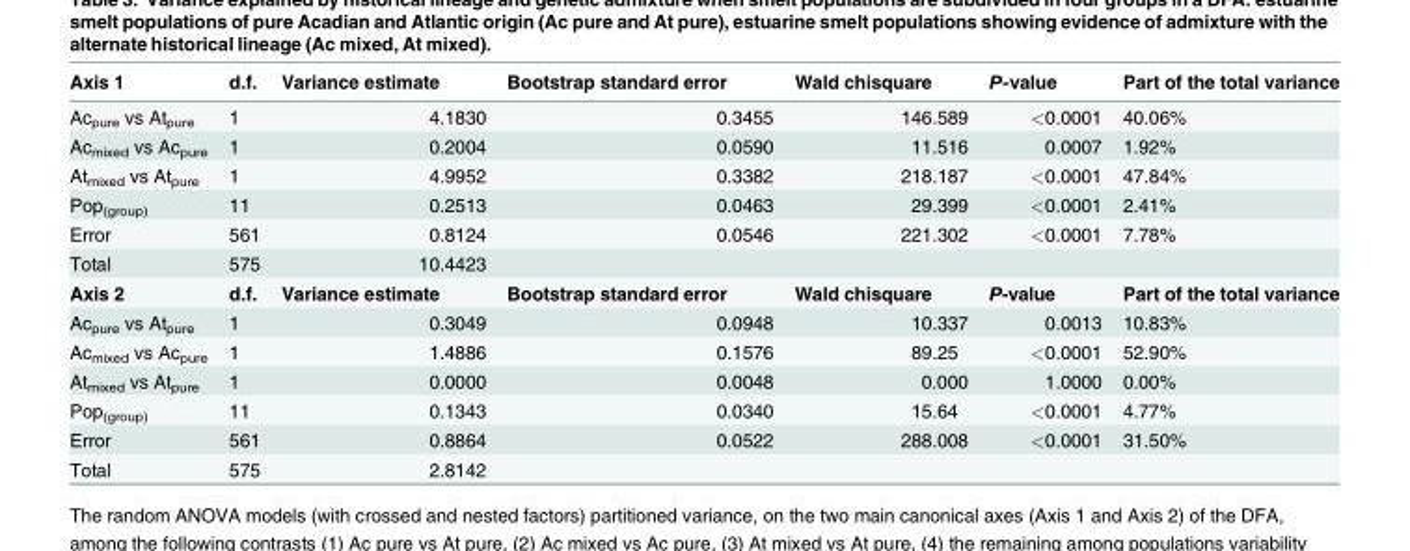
<table><thead><tr><td>Axis 1</td><td>d.f.</td><td>Variance estimate</td><td>Bootstrap standard error</td><td>Wald chisquare</td><td>P-value</td><td>Part of the total variance</td></tr></thead><tbody><tr><td>Ac<sub>pure</sub> vs At<sub>pure</sub></td><td>1</td><td>4.1830</td><td>0.3455</td><td>146.589</td><td>&lt;0.0001</td><td>40.06%</td></tr><tr><td>Ac<sub>mixed</sub> vs Ac<sub>pure</sub></td><td>1</td><td>0.2004</td><td>0.0590</td><td>11.516</td><td>0.0007</td><td>1.92%</td></tr><tr><td>At<sub>mixed</sub> vs At<sub>pure</sub></td><td>1</td><td>4.9952</td><td>0.3382</td><td>218.187</td><td>&lt;0.0001</td><td>47.84%</td></tr><tr><td>Pop<sub>(group)</sub></td><td>11</td><td>0.2513</td><td>0.0463</td><td>29.399</td><td>&lt;0.0001</td><td>2.41%</td></tr><tr><td>Error</td><td>561</td><td>0.8124</td><td>0.0546</td><td>221.302</td><td>&lt;0.0001</td><td>7.78%</td></tr><tr><td>Total</td><td>575</td><td>10.4423</td><td></td><td></td><td></td><td></td></tr><tr><td>Axis 2</td><td>d.f.</td><td>Variance estimate</td><td>Bootstrap standard error</td><td>Wald chisquare</td><td>P-value</td><td>Part of the total variance</td></tr><tr><td>Ac<sub>pure</sub> vs At<sub>pure</sub></td><td>1</td><td>0.3049</td><td>0.0948</td><td>10.337</td><td>0.0013</td><td>10.83%</td></tr><tr><td>Ac<sub>mixed</sub> vs Ac<sub>pure</sub></td><td>1</td><td>1.4886</td><td>0.1576</td><td>89.25</td><td>&lt;0.0001</td><td>52.90%</td></tr><tr><td>At<sub>mixed</sub> vs At<sub>pure</sub></td><td>1</td><td>0.0000</td><td>0.0048</td><td>0.000</td><td>1.0000</td><td>0.00%</td></tr><tr><td>Pop<sub>(group)</sub></td><td>11</td><td>0.1343</td><td>0.0340</td><td>15.64</td><td>&lt;0.0001</td><td>4.77%</td></tr><tr><td>Error</td><td>561</td><td>0.8864</td><td>0.0522</td><td>288.008</td><td>&lt;0.0001</td><td>31.50%</td></tr><tr><td>Total</td><td>575</td><td>2.8142</td><td></td><td></td><td></td><td></td></tr></tbody></table>